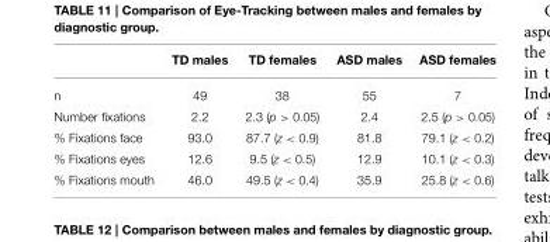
<table><thead><tr><td></td><td>TD males</td><td>TD females</td><td>ASD males</td><td>ASD females</td></tr></thead><tbody><tr><td>n</td><td>49</td><td>38</td><td>55</td><td>7</td></tr><tr><td>Number fixations</td><td>2.2</td><td>2.3 (p &gt; 0.05)</td><td>2.4</td><td>2.5 (p &gt; 0.05)</td></tr><tr><td>% Fixations face</td><td>93.0</td><td>87.7 (z &lt; 0.9)</td><td>81.8</td><td>79.1 (z &lt; 0.2)</td></tr><tr><td>% Fixations eyes</td><td>12.6</td><td>9.5 (z &lt; 0.5)</td><td>12.9</td><td>10.1 (z &lt; 0.3)</td></tr><tr><td>% Fixations mouth</td><td>46.0</td><td>49.5 (z &lt; 0.4)</td><td>35.9</td><td>25.8 (z &lt; 0.6)</td></tr></tbody></table>